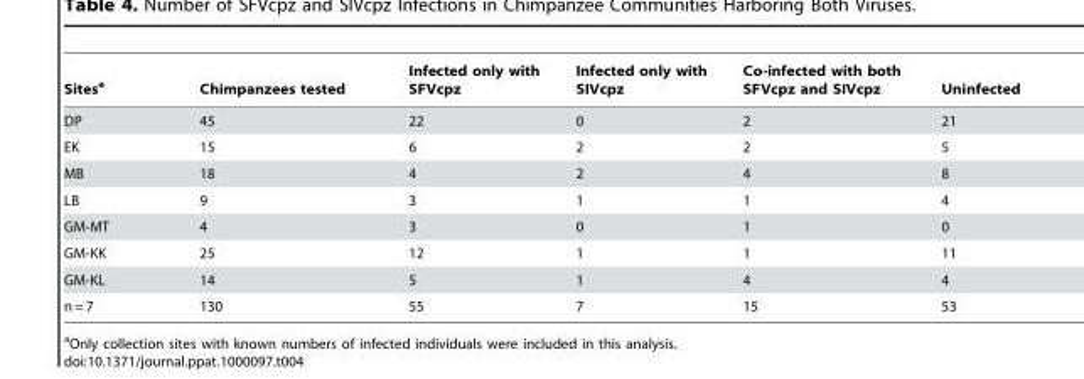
<table><thead><tr><td>Sites<sup>a</sup></td><td>Chimpanzees tested</td><td>Infected only with SFVcpz</td><td>Infected only with SIVcpz</td><td>Co-infected with both SFVcpz and SIVcpz</td><td>Uninfected</td></tr></thead><tbody><tr><td>DP</td><td>45</td><td>22</td><td>0</td><td>2</td><td>21</td></tr><tr><td>EK</td><td>15</td><td>6</td><td>2</td><td>2</td><td>5</td></tr><tr><td>MB</td><td>18</td><td>4</td><td>2</td><td>4</td><td>8</td></tr><tr><td>LB</td><td>9</td><td>3</td><td>1</td><td>1</td><td>4</td></tr><tr><td>GM-MT</td><td>4</td><td>3</td><td>0</td><td>1</td><td>0</td></tr><tr><td>GM-KK</td><td>25</td><td>12</td><td>1</td><td>1</td><td>11</td></tr><tr><td>GM-KL</td><td>14</td><td>5</td><td>1</td><td>4</td><td>4</td></tr><tr><td>n = 7</td><td>130</td><td>55</td><td>7</td><td>15</td><td>53</td></tr></tbody></table>